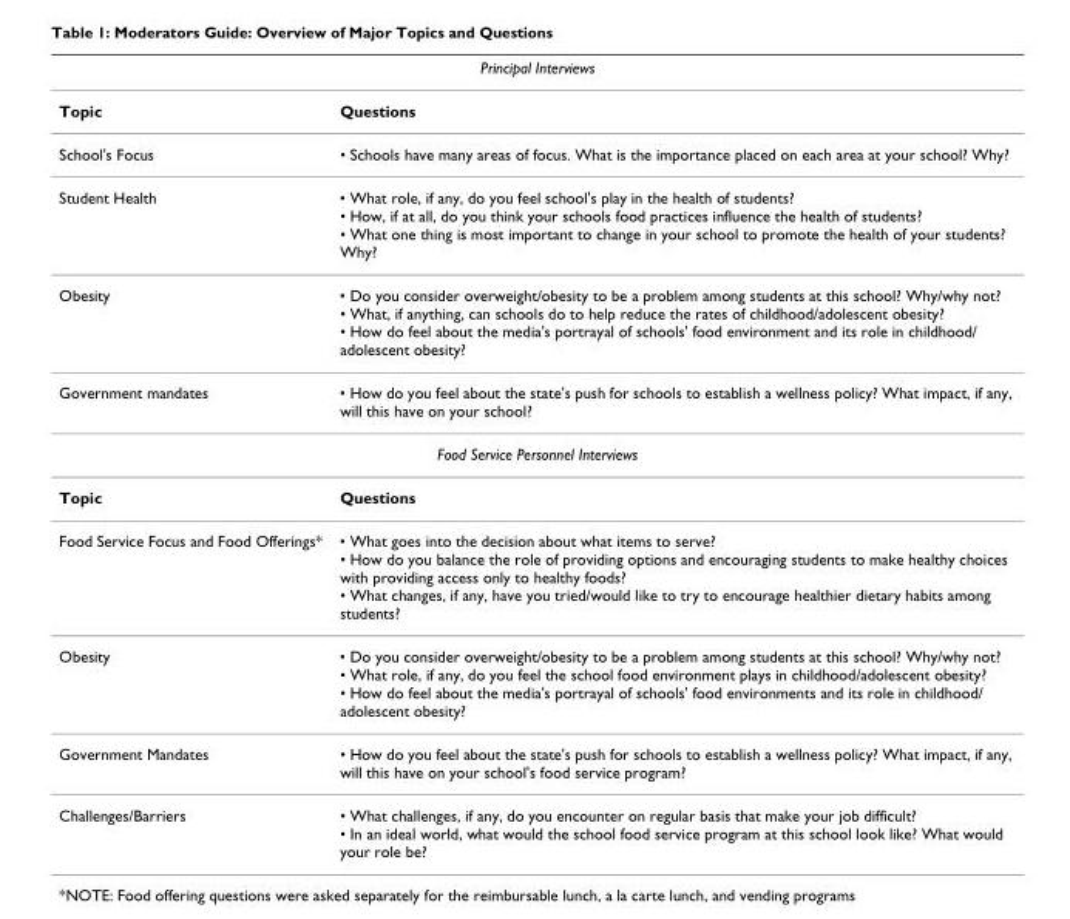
<table><thead><tr><td colspan="2">Principal Interviews</td></tr><tr><td>Topic</td><td>Questions</td></tr></thead><tbody><tr><td>School&#x27;s Focus</td><td>• Schools have many areas of focus. What is the importance placed on each area at your school? Why?</td></tr><tr><td>Student Health</td><td>• What role, if any, do you feel school&#x27;s play in the health of students? • How, if at all, do you think your schools food practices influence the health of students? • What one thing is most important to change in your school to promote the health of your students? Why?</td></tr><tr><td>Obesity</td><td>• Do you consider overweight/obesity to be a problem among students at this school? Why/why not? • What, if anything, can schools do to help reduce the rates of childhood/adolescent obesity? • How do feel about the media&#x27;s portrayal of schools&#x27; food environment and its role in childhood/ adolescent obesity?</td></tr><tr><td>Government mandates</td><td>• How do you feel about the state&#x27;s push for schools to establish a wellness policy? What impact, if any, will this have on your school?</td></tr><tr><td colspan="2">Food Service Personnel Interviews</td></tr><tr><td>Topic</td><td>Questions</td></tr><tr><td>Food Service Focus and Food Offerings*</td><td>• What goes into the decision about what items to serve? • How do you balance the role of providing options and encouraging students to make healthy choices with providing access only to healthy foods? • What changes, if any, have you tried/would like to try to encourage healthier dietary habits among students?</td></tr><tr><td>Obesity</td><td>• Do you consider overweight/obesity to be a problem among students at this school? Why/why not? • What role, if any, do you feel the school food environment plays in childhood/adolescent obesity? • How do feel about the media&#x27;s portrayal of schools&#x27; food environments and its role in childhood/ adolescent obesity?</td></tr><tr><td>Government Mandates</td><td>• How do you feel about the state&#x27;s push for schools to establish a wellness policy? What impact, if any, will this have on your school&#x27;s food service program?</td></tr><tr><td>Challenges/Barriers</td><td>• What challenges, if any, do you encounter on regular basis that make your job difficult? • In an ideal world, what would the school food service program at this school look like? What would your role be?</td></tr></tbody></table>